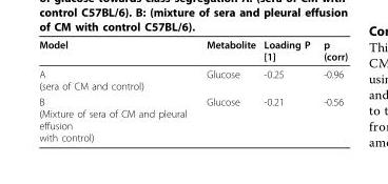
<table><thead><tr><td>Model</td><td>Metabolite</td><td>Loading P [1]</td><td>p (corr)</td></tr></thead><tbody><tr><td>A (sera of CM and control)</td><td>Glucose</td><td>-0.25</td><td>-0.96</td></tr><tr><td>B (Mixture of sera of CM and pleural effusion with control)</td><td>Glucose</td><td>-0.21</td><td>-0.56</td></tr></tbody></table>